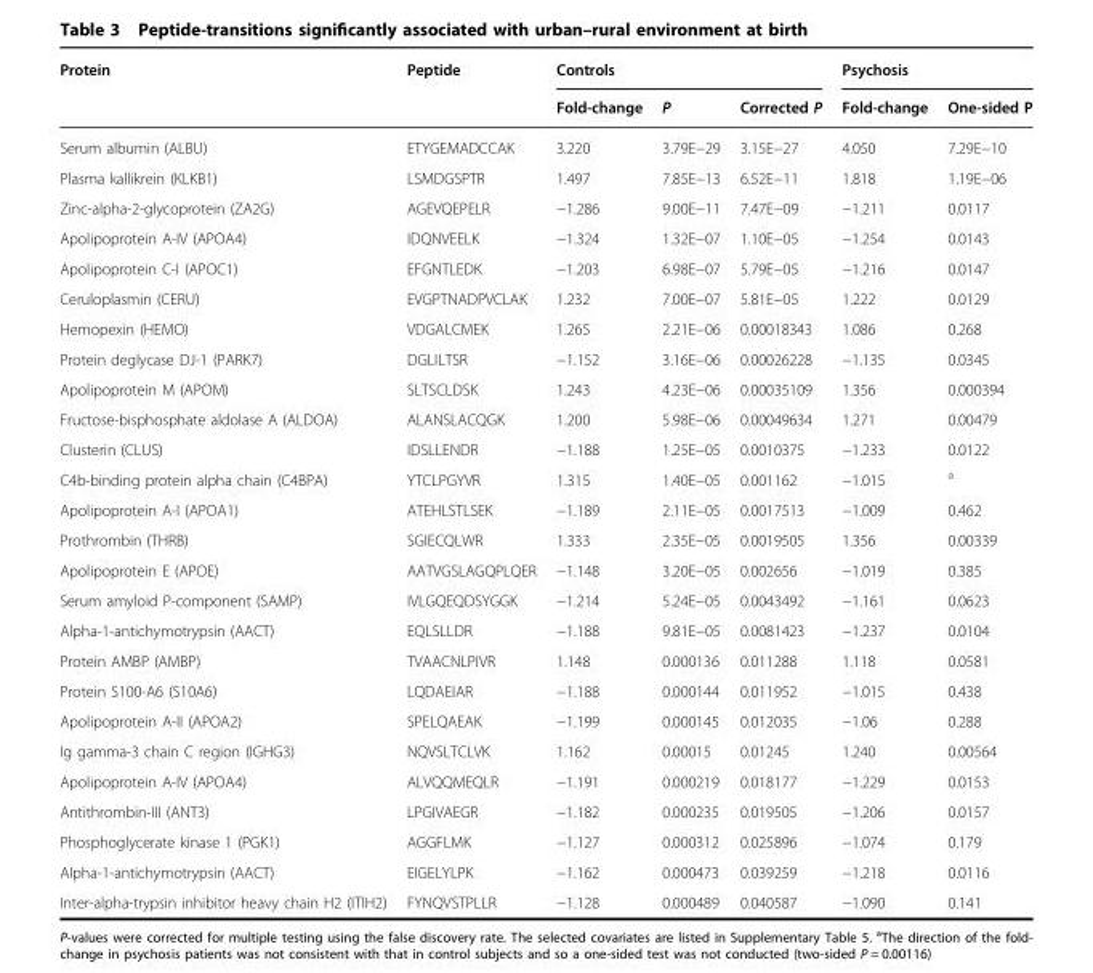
<table><thead><tr><td rowspan="2">Protein</td><td rowspan="2">Peptide</td><td colspan="3">Controls</td><td colspan="2">Psychosis</td></tr><tr><td>Fold-change</td><td>P</td><td>Corrected P</td><td>Fold-change</td><td>One-sided P</td></tr></thead><tbody><tr><td>Serum albumin (ALBU)</td><td>ETYGEMADCCAK</td><td>3.220</td><td>3.79E−29</td><td>3.15E−27</td><td>4.050</td><td>7.29E−10</td></tr><tr><td>Plasma kallikrein (KLKB1)</td><td>LSMDGSPTR</td><td>1.497</td><td>7.85E−13</td><td>6.52E−11</td><td>1.818</td><td>1.19E−06</td></tr><tr><td>Zinc-alpha-2-glycoprotein (ZA2G)</td><td>AGEVQEPELR</td><td>−1.286</td><td>9.00E−11</td><td>7.47E−09</td><td>−1.211</td><td>0.0117</td></tr><tr><td>Apolipoprotein A-IV (APOA4)</td><td>IDQNVEELK</td><td>−1.324</td><td>1.32E−07</td><td>1.10E−05</td><td>−1.254</td><td>0.0143</td></tr><tr><td>Apolipoprotein C-I (APOC1)</td><td>EFGNTLEDK</td><td>−1.203</td><td>6.98E−07</td><td>5.79E−05</td><td>−1.216</td><td>0.0147</td></tr><tr><td>Ceruloplasmin (CERU)</td><td>EVGPTNADPVCLAK</td><td>1.232</td><td>7.00E−07</td><td>5.81E−05</td><td>1.222</td><td>0.0129</td></tr><tr><td>Hemopexin (HEMO)</td><td>VDGALCMEK</td><td>1.265</td><td>2.21E−06</td><td>0.00018343</td><td>1.086</td><td>0.268</td></tr><tr><td>Protein deglycase DJ-1 (PARK7)</td><td>DGLILTSR</td><td>−1.152</td><td>3.16E−06</td><td>0.00026228</td><td>−1.135</td><td>0.0345</td></tr><tr><td>Apolipoprotein M (APOM)</td><td>SLTSCLDSK</td><td>1.243</td><td>4.23E−06</td><td>0.00035109</td><td>1.356</td><td>0.000394</td></tr><tr><td>Fructose-bisphosphate aldolase A (ALDOA)</td><td>ALANSLACQGK</td><td>1.200</td><td>5.98E−06</td><td>0.00049634</td><td>1.271</td><td>0.00479</td></tr><tr><td>Clusterin (CLUS)</td><td>IDSLLENDR</td><td>−1.188</td><td>1.25E−05</td><td>0.0010375</td><td>−1.233</td><td>0.0122</td></tr><tr><td>C4b-binding protein alpha chain (C4BPA)</td><td>YTCLPGYVR</td><td>1.315</td><td>1.40E−05</td><td>0.001162</td><td>−1.015</td><td><sup>a</sup></td></tr><tr><td>Apolipoprotein A-I (APOA1)</td><td>ATEHLSTLSEK</td><td>−1.189</td><td>2.11E−05</td><td>0.0017513</td><td>−1.009</td><td>0.462</td></tr><tr><td>Prothrombin (THRB)</td><td>SGIECQLWR</td><td>1.333</td><td>2.35E−05</td><td>0.0019505</td><td>1.356</td><td>0.00339</td></tr><tr><td>Apolipoprotein E (APOE)</td><td>AATVGSLAGQPLQER</td><td>−1.148</td><td>3.20E−05</td><td>0.002656</td><td>−1.019</td><td>0.385</td></tr><tr><td>Serum amyloid P-component (SAMP)</td><td>IVLGQEQDSYGGK</td><td>−1.214</td><td>5.24E−05</td><td>0.0043492</td><td>−1.161</td><td>0.0623</td></tr><tr><td>Alpha-1-antichymotrypsin (AACT)</td><td>EQLSLLDR</td><td>−1.188</td><td>9.81E−05</td><td>0.0081423</td><td>−1.237</td><td>0.0104</td></tr><tr><td>Protein AMBP (AMBP)</td><td>TVAACNLPIVR</td><td>1.148</td><td>0.000136</td><td>0.011288</td><td>1.118</td><td>0.0581</td></tr><tr><td>Protein S100-A6 (S10A6)</td><td>LQDAEIAR</td><td>−1.188</td><td>0.000144</td><td>0.011952</td><td>−1.015</td><td>0.438</td></tr><tr><td>Apolipoprotein A-II (APOA2)</td><td>SPELQAEAK</td><td>−1.199</td><td>0.000145</td><td>0.012035</td><td>−1.06</td><td>0.288</td></tr><tr><td>Ig gamma-3 chain C region (IGHG3)</td><td>NQVSLTCLVK</td><td>1.162</td><td>0.00015</td><td>0.01245</td><td>1.240</td><td>0.00564</td></tr><tr><td>Apolipoprotein A-IV (APOA4)</td><td>ALVQQMEQLR</td><td>−1.191</td><td>0.000219</td><td>0.018177</td><td>−1.229</td><td>0.0153</td></tr><tr><td>Antithrombin-III (ANT3)</td><td>LPGIVAEGR</td><td>−1.182</td><td>0.000235</td><td>0.019505</td><td>−1.206</td><td>0.0157</td></tr><tr><td>Phosphoglycerate kinase 1 (PGK1)</td><td>AGGFLMK</td><td>−1.127</td><td>0.000312</td><td>0.025896</td><td>−1.074</td><td>0.179</td></tr><tr><td>Alpha-1-antichymotrypsin (AACT)</td><td>EIGELYLPK</td><td>−1.162</td><td>0.000473</td><td>0.039259</td><td>−1.218</td><td>0.0116</td></tr><tr><td>Inter-alpha-trypsin inhibitor heavy chain H2 (ITIH2)</td><td>FYNQVSTPLLR</td><td>−1.128</td><td>0.000489</td><td>0.040587</td><td>−1.090</td><td>0.141</td></tr></tbody></table>